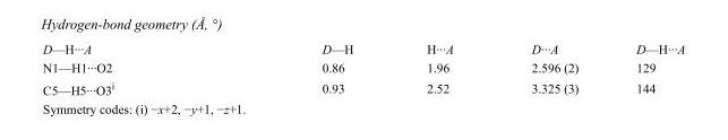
<table><tbody><tr><td>D—H···A</td><td>D—H</td><td>H···A</td><td>D···A</td><td>D—H···A</td></tr><tr><td>N1—H1···O2</td><td>0.86</td><td>1.96</td><td>2.596 (2)</td><td>129</td></tr><tr><td>C5—H5···O3<sup>i</sup></td><td>0.93</td><td>2.52</td><td>3.325 (3)</td><td>144</td></tr></tbody></table>